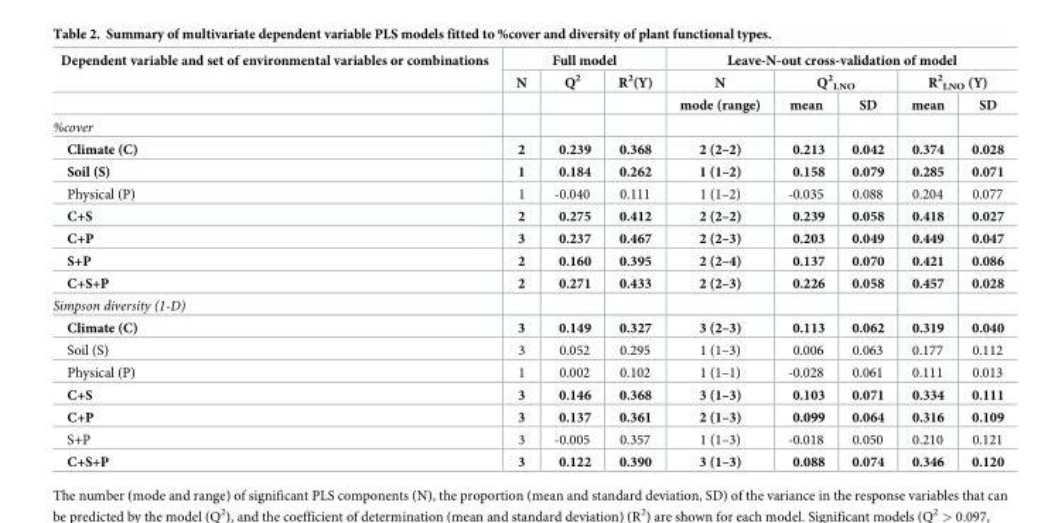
<table><thead><tr><td rowspan="3">Dependent variable and set of environmental variables or combinations</td><td colspan="3">Full model</td><td colspan="5">Leave-N-out cross-validation of model</td></tr><tr><td rowspan="2">N</td><td rowspan="2">Q<sup>2</sup></td><td rowspan="2">R<sup>2</sup>(Y)</td><td rowspan="2">N mode (range)</td><td colspan="2">Q<sup>2</sup> <sub>LNO</sub></td><td colspan="2">R<sup>2</sup> <sub>LNO</sub> (Y)</td></tr><tr><td>mean</td><td>SD</td><td>mean</td><td>SD</td></tr></thead><tbody><tr><td colspan="9">%cover</td></tr><tr><td>Climate (C)</td><td>2</td><td>0.239</td><td>0.368</td><td>2 (2–2)</td><td>0.213</td><td>0.042</td><td>0.374</td><td>0.028</td></tr><tr><td>Soil (S)</td><td>1</td><td>0.184</td><td>0.262</td><td>1 (1–2)</td><td>0.158</td><td>0.079</td><td>0.285</td><td>0.071</td></tr><tr><td>Physical (P)</td><td>1</td><td>-0.040</td><td>0.111</td><td>1 (1–2)</td><td>-0.035</td><td>0.088</td><td>0.204</td><td>0.077</td></tr><tr><td>C+S</td><td>2</td><td>0.275</td><td>0.412</td><td>2 (2–2)</td><td>0.239</td><td>0.058</td><td>0.418</td><td>0.027</td></tr><tr><td>C+P</td><td>3</td><td>0.237</td><td>0.467</td><td>2 (2–3)</td><td>0.203</td><td>0.049</td><td>0.449</td><td>0.047</td></tr><tr><td>S+P</td><td>2</td><td>0.160</td><td>0.395</td><td>2 (2–4)</td><td>0.137</td><td>0.070</td><td>0.421</td><td>0.086</td></tr><tr><td>C+S+P</td><td>2</td><td>0.271</td><td>0.433</td><td>2 (2–3)</td><td>0.226</td><td>0.058</td><td>0.457</td><td>0.028</td></tr><tr><td colspan="9">Simpson diversity (1-D)</td></tr><tr><td>Climate (C)</td><td>3</td><td>0.149</td><td>0.327</td><td>3 (2–3)</td><td>0.113</td><td>0.062</td><td>0.319</td><td>0.040</td></tr><tr><td>Soil (S)</td><td>3</td><td>0.052</td><td>0.295</td><td>1 (1–3)</td><td>0.006</td><td>0.063</td><td>0.177</td><td>0.112</td></tr><tr><td>Physical (P)</td><td>1</td><td>0.002</td><td>0.102</td><td>1 (1–1)</td><td>-0.028</td><td>0.061</td><td>0.111</td><td>0.013</td></tr><tr><td>C+S</td><td>3</td><td>0.146</td><td>0.368</td><td>3 (1–3)</td><td>0.103</td><td>0.071</td><td>0.334</td><td>0.111</td></tr><tr><td>C+P</td><td>3</td><td>0.137</td><td>0.361</td><td>2 (1–3)</td><td>0.099</td><td>0.064</td><td>0.316</td><td>0.109</td></tr><tr><td>S+P</td><td>3</td><td>-0.005</td><td>0.357</td><td>1 (1–3)</td><td>-0.018</td><td>0.050</td><td>0.210</td><td>0.121</td></tr><tr><td>C+S+P</td><td>3</td><td>0.122</td><td>0.390</td><td>3 (1–3)</td><td>0.088</td><td>0.074</td><td>0.346</td><td>0.120</td></tr></tbody></table>